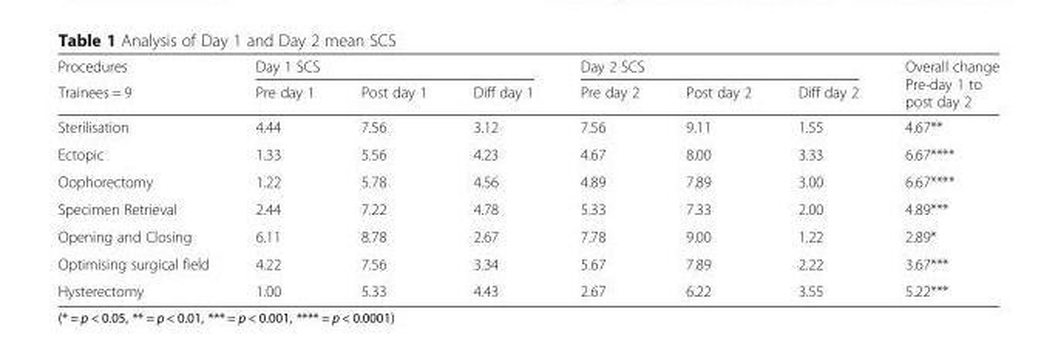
<table><thead><tr><td rowspan="2">Procedures Trainees = 9</td><td colspan="3">Day 1 SCS</td><td colspan="3">Day 2 SCS</td><td rowspan="2">Overall change Pre-day 1 to post day 2</td></tr><tr><td>Pre day 1</td><td>Post day 1</td><td>Diff day 1</td><td>Pre day 2</td><td>Post day 2</td><td>Diff day 2</td></tr></thead><tbody><tr><td>Sterilisation</td><td>4.44</td><td>7.56</td><td>3.12</td><td>7.56</td><td>9.11</td><td>1.55</td><td>4.67**</td></tr><tr><td>Ectopic</td><td>1.33</td><td>5.56</td><td>4.23</td><td>4.67</td><td>8.00</td><td>3.33</td><td>6.67****</td></tr><tr><td>Oophorectomy</td><td>1.22</td><td>5.78</td><td>4.56</td><td>4.89</td><td>7.89</td><td>3.00</td><td>6.67****</td></tr><tr><td>Specimen Retrieval</td><td>2.44</td><td>7.22</td><td>4.78</td><td>5.33</td><td>7.33</td><td>2.00</td><td>4.89***</td></tr><tr><td>Opening and Closing</td><td>6.11</td><td>8.78</td><td>2.67</td><td>7.78</td><td>9.00</td><td>1.22</td><td>2.89*</td></tr><tr><td>Optimising surgical field</td><td>4.22</td><td>7.56</td><td>3.34</td><td>5.67</td><td>7.89</td><td>2.22</td><td>3.67***</td></tr><tr><td>Hysterectomy</td><td>1.00</td><td>5.33</td><td>4.43</td><td>2.67</td><td>6.22</td><td>3.55</td><td>5.22***</td></tr></tbody></table>